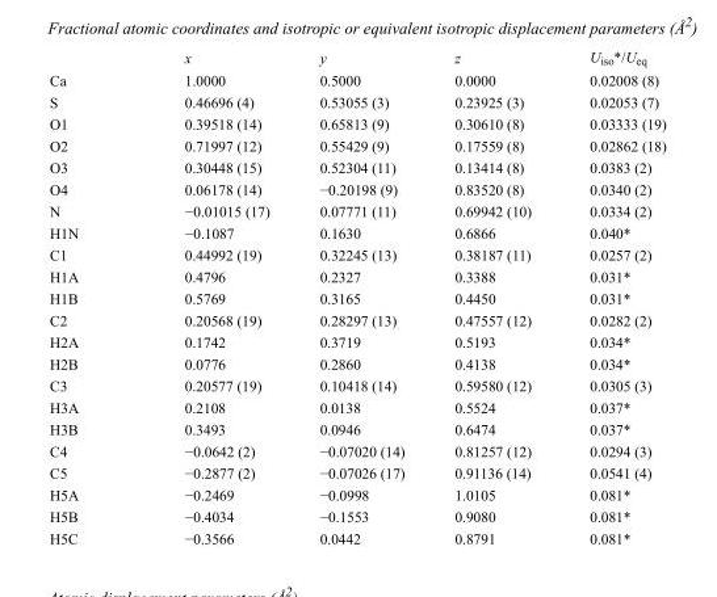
<table><thead><tr><td></td><td>x</td><td>y</td><td>z</td><td>U<sub>iso</sub>*/U<sub>eq</sub></td></tr></thead><tbody><tr><td>Ca</td><td>1.0000</td><td>0.5000</td><td>0.0000</td><td>0.02008 (8)</td></tr><tr><td>S</td><td>0.46696 (4)</td><td>0.53055 (3)</td><td>0.23925 (3)</td><td>0.02053 (7)</td></tr><tr><td>O1</td><td>0.39518 (14)</td><td>0.65813 (9)</td><td>0.30610 (8)</td><td>0.03333 (19)</td></tr><tr><td>O2</td><td>0.71997 (12)</td><td>0.55429 (9)</td><td>0.17559 (8)</td><td>0.02862 (18)</td></tr><tr><td>O3</td><td>0.30448 (15)</td><td>0.52304 (11)</td><td>0.13414 (8)</td><td>0.0383 (2)</td></tr><tr><td>O4</td><td>0.06178 (14)</td><td>−0.20198 (9)</td><td>0.83520 (8)</td><td>0.0340 (2)</td></tr><tr><td>N</td><td>−0.01015 (17)</td><td>0.07771 (11)</td><td>0.69942 (10)</td><td>0.0334 (2)</td></tr><tr><td>H1N</td><td>−0.1087</td><td>0.1630</td><td>0.6866</td><td>0.040*</td></tr><tr><td>C1</td><td>0.44992 (19)</td><td>0.32245 (13)</td><td>0.38187 (11)</td><td>0.0257 (2)</td></tr><tr><td>H1A</td><td>0.4796</td><td>0.2327</td><td>0.3388</td><td>0.031*</td></tr><tr><td>H1B</td><td>0.5769</td><td>0.3165</td><td>0.4450</td><td>0.031*</td></tr><tr><td>C2</td><td>0.20568 (19)</td><td>0.28297 (13)</td><td>0.47557 (12)</td><td>0.0282 (2)</td></tr><tr><td>H2A</td><td>0.1742</td><td>0.3719</td><td>0.5193</td><td>0.034*</td></tr><tr><td>H2B</td><td>0.0776</td><td>0.2860</td><td>0.4138</td><td>0.034*</td></tr><tr><td>C3</td><td>0.20577 (19)</td><td>0.10418 (14)</td><td>0.59580 (12)</td><td>0.0305 (3)</td></tr><tr><td>H3A</td><td>0.2108</td><td>0.0138</td><td>0.5524</td><td>0.037*</td></tr><tr><td>H3B</td><td>0.3493</td><td>0.0946</td><td>0.6474</td><td>0.037*</td></tr><tr><td>C4</td><td>−0.0642 (2)</td><td>−0.07020 (14)</td><td>0.81257 (12)</td><td>0.0294 (3)</td></tr><tr><td>C5</td><td>−0.2877 (2)</td><td>−0.07026 (17)</td><td>0.91136 (14)</td><td>0.0541 (4)</td></tr><tr><td>H5A</td><td>−0.2469</td><td>−0.0998</td><td>1.0105</td><td>0.081*</td></tr><tr><td>H5B</td><td>−0.4034</td><td>−0.1553</td><td>0.9080</td><td>0.081*</td></tr><tr><td>H5C</td><td>−0.3566</td><td>0.0442</td><td>0.8791</td><td>0.081*</td></tr></tbody></table>